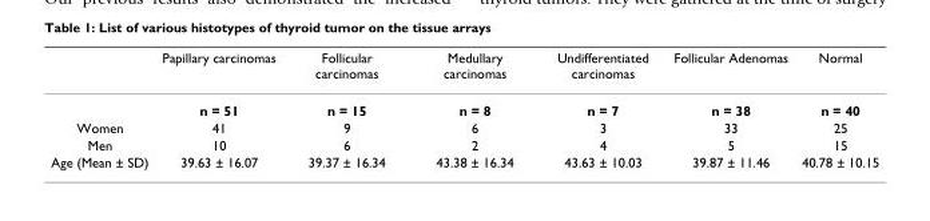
<table><thead><tr><td></td><td>Papillary carcinomas</td><td>Follicular carcinomas</td><td>Medullary carcinomas</td><td>Undifferentiated carcinomas</td><td>Follicular Adenomas</td><td>Normal</td></tr></thead><tbody><tr><td></td><td>n = 51</td><td>n = 15</td><td>n = 8</td><td>n = 7</td><td>n = 38</td><td>n = 40</td></tr><tr><td>Women</td><td>41</td><td>9</td><td>6</td><td>3</td><td>33</td><td>25</td></tr><tr><td>Men</td><td>10</td><td>6</td><td>2</td><td>4</td><td>5</td><td>15</td></tr><tr><td>Age (Mean ± SD)</td><td>39.63 ± 16.07</td><td>39.37 ± 16.34</td><td>43.38 ± 16.34</td><td>43.63 ± 10.03</td><td>39.87 ± 11.46</td><td>40.78 ± 10.15</td></tr></tbody></table>